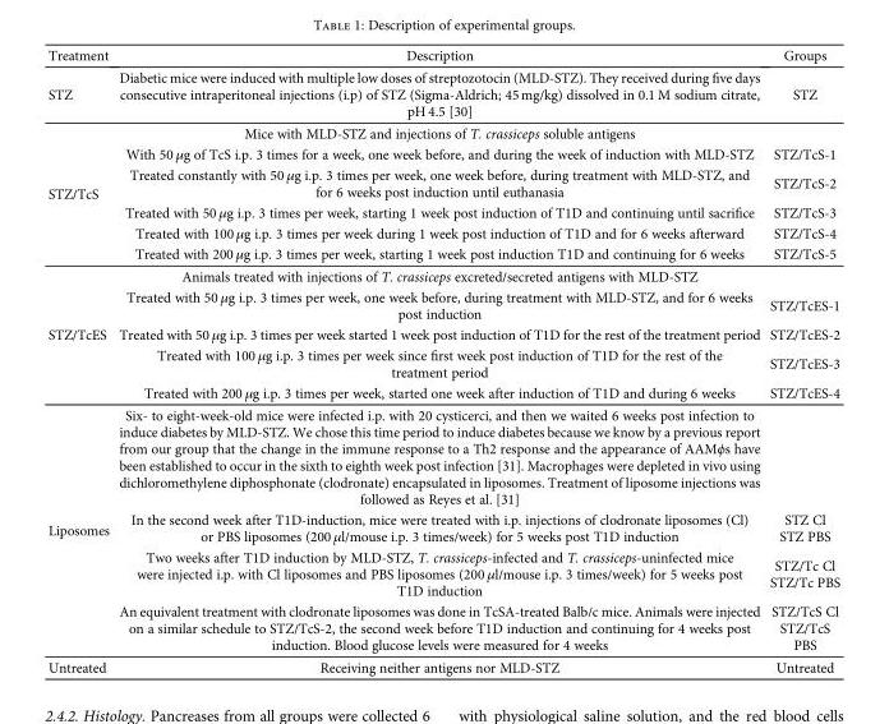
<table><thead><tr><td>Treatment</td><td>Description</td><td>Groups</td></tr></thead><tbody><tr><td>STZ</td><td>Diabetic mice were induced with multiple low doses of streptozotocin (MLD-STZ). They received during five days consecutive intraperitoneal injections (i.p) of STZ (Sigma-Aldrich; 45 mg/kg) dissolved in 0.1 M sodium citrate, pH 4.5 [30]</td><td>STZ</td></tr><tr><td rowspan="6">STZ/TcS</td><td>Mice with MLD-STZ and injections of T. crassiceps soluble antigens</td><td></td></tr><tr><td>With 50 μg of TcS i.p. 3 times for a week, one week before, and during the week of induction with MLD-STZ</td><td>STZ/TcS-1</td></tr><tr><td>Treated constantly with 50 μg i.p. 3 times per week, one week before, during treatment with MLD-STZ, and for 6 weeks post induction until euthanasia</td><td>STZ/TcS-2</td></tr><tr><td>Treated with 50 μg i.p. 3 times per week, starting 1 week post induction of T1D and continuing until sacrifice</td><td>STZ/TcS-3</td></tr><tr><td>Treated with 100 μg i.p. 3 times per week during 1 week post induction of T1D and for 6 weeks afterward</td><td>STZ/TcS-4</td></tr><tr><td>Treated with 200 μg i.p. 3 times per week, starting 1 week post induction T1D and continuing for 6 weeks</td><td>STZ/TcS-5</td></tr><tr><td rowspan="5">STZ/TcES</td><td>Animals treated with injections of T. crassiceps excreted/secreted antigens with MLD-STZ</td><td></td></tr><tr><td>Treated with 50 μg i.p. 3 times per week, one week before, during treatment with MLD-STZ, and for 6 weeks post induction</td><td>STZ/TcES-1</td></tr><tr><td>Treated with 50 μg i.p. 3 times per week started 1 week post induction of T1D for the rest of the treatment period</td><td>STZ/TcES-2</td></tr><tr><td>Treated with 100 μg i.p. 3 times per week since first week post induction of T1D for the rest of the treatment period</td><td>STZ/TcES-3</td></tr><tr><td>Treated with 200 μg i.p. 3 times per week, started one week after induction of T1D and during 6 weeks</td><td>STZ/TcES-4</td></tr><tr><td rowspan="4">Liposomes</td><td>Six- to eight-week-old mice were infected i.p. with 20 cysticerci, and then we waited 6 weeks post infection to induce diabetes by MLD-STZ. We chose this time period to induce diabetes because we know by a previous report from our group that the change in the immune response to a Th2 response and the appearance of AAMϕs have been established to occur in the sixth to eighth week post infection [31]. Macrophages were depleted in vivo using dichloromethylene diphosphonate (clodronate) encapsulated in liposomes. Treatment of liposome injections was followed as Reyes et al. [31]</td><td></td></tr><tr><td>In the second week after T1D-induction, mice were treated with i.p. injections of clodronate liposomes (Cl) or PBS liposomes (200 μl/mouse i.p. 3 times/week) for 5 weeks post T1D induction</td><td>STZ Cl STZ PBS</td></tr><tr><td>Two weeks after T1D induction by MLD-STZ, T. crassiceps-infected and T. crassiceps-uninfected mice were injected i.p. with Cl liposomes and PBS liposomes (200 μl/mouse i.p. 3 times/week) for 5 weeks post T1D induction</td><td>STZ/Tc Cl STZ/Tc PBS</td></tr><tr><td>An equivalent treatment with clodronate liposomes was done in TcSA-treated Balb/c mice. Animals were injected on a similar schedule to STZ/TcS-2, the second week before T1D induction and continuing for 4 weeks post induction. Blood glucose levels were measured for 4 weeks</td><td>STZ/TcS Cl STZ/TcS PBS</td></tr><tr><td>Untreated</td><td>Receiving neither antigens nor MLD-STZ</td><td>Untreated</td></tr></tbody></table>